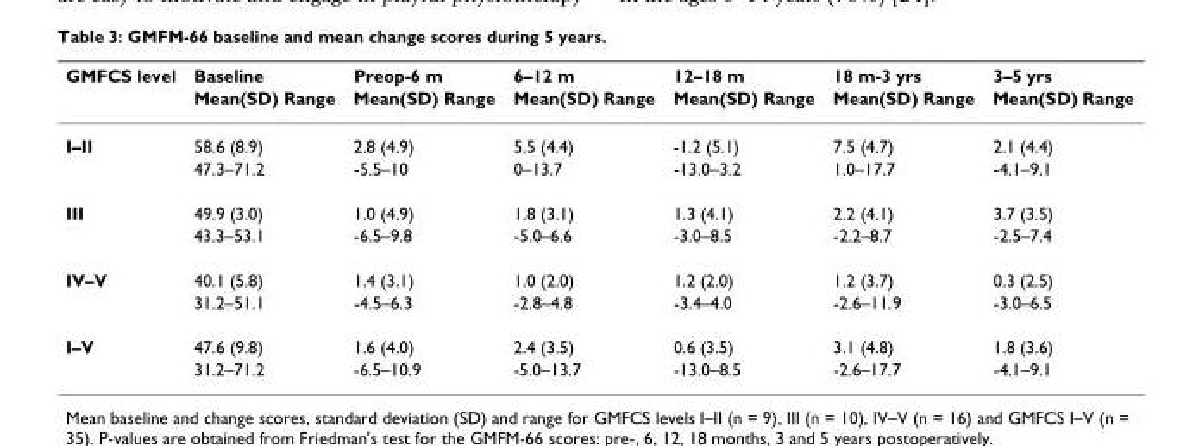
<table><thead><tr><td rowspan="2">GMFCS level</td><td rowspan="2">Baseline Mean(SD) Range</td><td rowspan="2">Preop-6 m Mean(SD) Range</td><td rowspan="2">6–12 m Mean(SD) Range</td><td rowspan="2">12–18 m Mean(SD) Range</td><td rowspan="2">18 m-3 yrs Mean(SD) Range</td><td rowspan="2">3–5 yrs Mean(SD) Range</td></tr><tr></tr></thead><tbody><tr><td rowspan="2">I–II</td><td>58.6 (8.9)</td><td>2.8 (4.9)</td><td>5.5 (4.4)</td><td>-1.2 (5.1)</td><td>7.5 (4.7)</td><td>2.1 (4.4)</td></tr><tr><td>47.3–71.2</td><td>-5.5–10</td><td>0–13.7</td><td>-13.0–3.2</td><td>1.0–17.7</td><td>-4.1–9.1</td></tr><tr><td rowspan="2">III</td><td>49.9 (3.0)</td><td>1.0 (4.9)</td><td>1.8 (3.1)</td><td>1.3 (4.1)</td><td>2.2 (4.1)</td><td>3.7 (3.5)</td></tr><tr><td>43.3–53.1</td><td>-6.5–9.8</td><td>-5.0–6.6</td><td>-3.0–8.5</td><td>-2.2–8.7</td><td>-2.5–7.4</td></tr><tr><td rowspan="2">IV–V</td><td>40.1 (5.8)</td><td>1.4 (3.1)</td><td>1.0 (2.0)</td><td>1.2 (2.0)</td><td>1.2 (3.7)</td><td>0.3 (2.5)</td></tr><tr><td>31.2–51.1</td><td>-4.5–6.3</td><td>-2.8–4.8</td><td>-3.4–4.0</td><td>-2.6–11.9</td><td>-3.0–6.5</td></tr><tr><td rowspan="2">I–V</td><td>47.6 (9.8)</td><td>1.6 (4.0)</td><td>2.4 (3.5)</td><td>0.6 (3.5)</td><td>3.1 (4.8)</td><td>1.8 (3.6)</td></tr><tr><td>31.2–71.2</td><td>-6.5–10.9</td><td>-5.0–13.7</td><td>-13.0–8.5</td><td>-2.6–17.7</td><td>-4.1–9.1</td></tr></tbody></table>